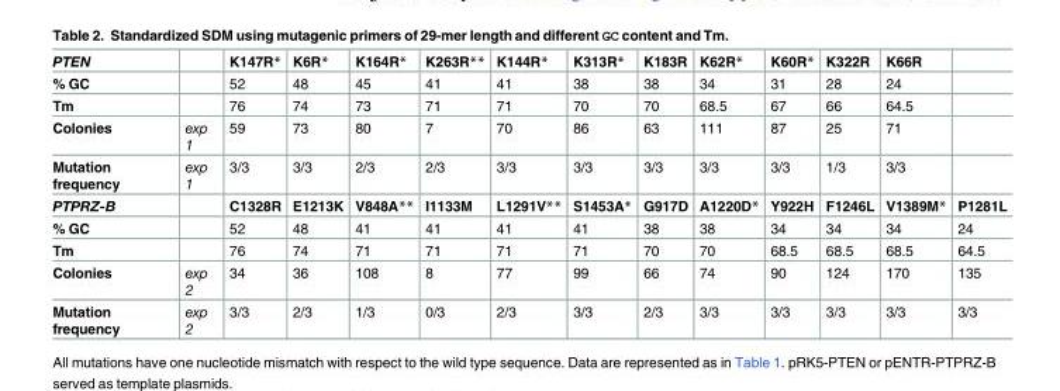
<table><tbody><tr><td>PTEN</td><td></td><td>K147R*</td><td>K6R*</td><td>K164R*</td><td>K263R**</td><td>K144R*</td><td>K313R*</td><td>K183R</td><td>K62R*</td><td>K60R*</td><td>K322R</td><td>K66R</td><td></td></tr><tr><td>% GC</td><td></td><td>52</td><td>48</td><td>45</td><td>41</td><td>41</td><td>38</td><td>38</td><td>34</td><td>31</td><td>28</td><td>24</td><td></td></tr><tr><td>Tm</td><td></td><td>76</td><td>74</td><td>73</td><td>71</td><td>71</td><td>70</td><td>70</td><td>68.5</td><td>67</td><td>66</td><td>64.5</td><td></td></tr><tr><td>Colonies</td><td>exp 1</td><td>59</td><td>73</td><td>80</td><td>7</td><td>70</td><td>86</td><td>63</td><td>111</td><td>87</td><td>25</td><td>71</td><td></td></tr><tr><td>Mutation frequency</td><td>exp 1</td><td>3/3</td><td>3/3</td><td>2/3</td><td>2/3</td><td>3/3</td><td>3/3</td><td>3/3</td><td>3/3</td><td>3/3</td><td>1/3</td><td>3/3</td><td></td></tr><tr><td>PTPRZ-B</td><td></td><td>C1328R</td><td>E1213K</td><td>V848A**</td><td>I1133M</td><td>L1291V**</td><td>S1453A*</td><td>G917D</td><td>A1220D*</td><td>Y922H</td><td>F1246L</td><td>V1389M*</td><td>P1281L</td></tr><tr><td>% GC</td><td></td><td>52</td><td>48</td><td>41</td><td>41</td><td>41</td><td>41</td><td>38</td><td>38</td><td>34</td><td>34</td><td>34</td><td>24</td></tr><tr><td>Tm</td><td></td><td>76</td><td>74</td><td>71</td><td>71</td><td>71</td><td>71</td><td>70</td><td>70</td><td>68.5</td><td>68.5</td><td>68.5</td><td>64.5</td></tr><tr><td>Colonies</td><td>exp 2</td><td>34</td><td>36</td><td>108</td><td>8</td><td>77</td><td>99</td><td>66</td><td>74</td><td>90</td><td>124</td><td>170</td><td>135</td></tr><tr><td>Mutation frequency</td><td>exp 2</td><td>3/3</td><td>2/3</td><td>1/3</td><td>0/3</td><td>2/3</td><td>3/3</td><td>2/3</td><td>3/3</td><td>3/3</td><td>3/3</td><td>3/3</td><td>3/3</td></tr></tbody></table>